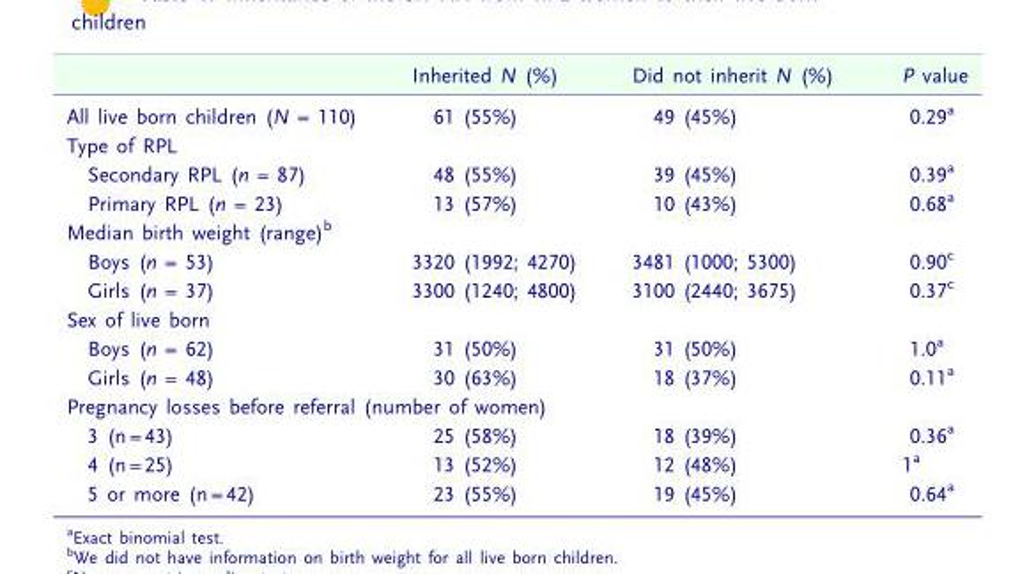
<table><thead><tr><td></td><td>Inherited N (%)</td><td>Did not inherit N (%)</td><td>P value</td></tr></thead><tbody><tr><td>All live born children (N = 110)</td><td>61 (55%)</td><td>49 (45%)</td><td>0.29<sup>a</sup></td></tr><tr><td colspan="4">Type of RPL</td></tr><tr><td>Secondary RPL (n = 87)</td><td>48 (55%)</td><td>39 (45%)</td><td>0.39<sup>a</sup></td></tr><tr><td>Primary RPL (n = 23)</td><td>13 (57%)</td><td>10 (43%)</td><td>0.68<sup>a</sup></td></tr><tr><td colspan="4">Median birth weight (range)<sup>b</sup></td></tr><tr><td>Boys (n = 53)</td><td>3320 (1992; 4270)</td><td>3481 (1000; 5300)</td><td>0.90<sup>c</sup></td></tr><tr><td>Girls (n = 37)</td><td>3300 (1240; 4800)</td><td>3100 (2440; 3675)</td><td>0.37<sup>c</sup></td></tr><tr><td colspan="4">Sex of live born</td></tr><tr><td>Boys (n = 62)</td><td>31 (50%)</td><td>31 (50%)</td><td>1.0<sup>a</sup></td></tr><tr><td>Girls (n = 48)</td><td>30 (63%)</td><td>18 (37%)</td><td>0.11<sup>a</sup></td></tr><tr><td colspan="4">Pregnancy losses before referral (number of women)</td></tr><tr><td>3 (n = 43)</td><td>25 (58%)</td><td>18 (39%)</td><td>0.36<sup>a</sup></td></tr><tr><td>4 (n = 25)</td><td>13 (52%)</td><td>12 (48%)</td><td>1<sup>a</sup></td></tr><tr><td>5 or more (n = 42)</td><td>23 (55%)</td><td>19 (45%)</td><td>0.64<sup>a</sup></td></tr></tbody></table>